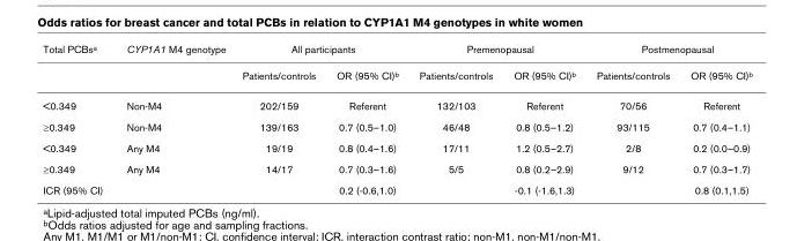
<table><thead><tr><td rowspan="2">Total PCBsa</td><td rowspan="2">CYP1A1 M4 genotype</td><td colspan="2">All participants</td><td colspan="2">Premenopausal</td><td colspan="2">Postmenopausal</td></tr><tr><td>Patients/controls</td><td>OR (95% CI)b</td><td>Patients/controls</td><td>OR (95% CI)b</td><td>Patients/controls</td><td>OR (95% CI)b</td></tr></thead><tbody><tr><td>&lt;0.349</td><td>Non-M4</td><td>202/159</td><td>Referent</td><td>132/103</td><td>Referent</td><td>70/56</td><td>Referent</td></tr><tr><td>≥0.349</td><td>Non-M4</td><td>139/163</td><td>0.7 (0.5–1.0)</td><td>46/48</td><td>0.8 (0.5–1.2)</td><td>93/115</td><td>0.7 (0.4–1.1)</td></tr><tr><td>&lt;0.349</td><td>Any M4</td><td>19/19</td><td>0.8 (0.4–1.6)</td><td>17/11</td><td>1.2 (0.5–2.7)</td><td>2/8</td><td>0.2 (0.0–0.9)</td></tr><tr><td>≥0.349</td><td>Any M4</td><td>14/17</td><td>0.7 (0.3–1.6)</td><td>5/5</td><td>0.8 (0.2–2.9)</td><td>9/12</td><td>0.7 (0.3–1.7)</td></tr><tr><td>ICR (95% CI)</td><td></td><td></td><td>0.2 (-0.6,1.0)</td><td></td><td>-0.1 (-1.6,1.3)</td><td></td><td>0.8 (0.1,1.5)</td></tr></tbody></table>